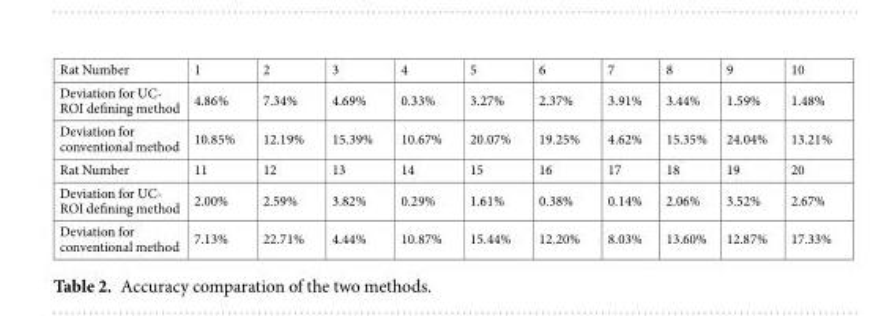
<table><tbody><tr><td>Rat Number</td><td>1</td><td>2</td><td>3</td><td>4</td><td>5</td><td>6</td><td>7</td><td>8</td><td>9</td><td>10</td></tr><tr><td>Deviation for UC- ROI defining method</td><td>4.86%</td><td>7.34%</td><td>4.69%</td><td>0.33%</td><td>3.27%</td><td>2.37%</td><td>3.91%</td><td>3.44%</td><td>1.59%</td><td>1.48%</td></tr><tr><td>Deviation for conventional method</td><td>10.85%</td><td>12.19%</td><td>15.39%</td><td>10.67%</td><td>20.07%</td><td>19.25%</td><td>4.62%</td><td>15.35%</td><td>24.04%</td><td>13.21%</td></tr><tr><td>Rat Number</td><td>11</td><td>12</td><td>13</td><td>14</td><td>15</td><td>16</td><td>17</td><td>18</td><td>19</td><td>20</td></tr><tr><td>Deviation for UC- ROI defining method</td><td>2.00%</td><td>2.59%</td><td>3.82%</td><td>0.29%</td><td>1.61%</td><td>0.38%</td><td>0.14%</td><td>2.06%</td><td>3.52%</td><td>2.67%</td></tr><tr><td>Deviation for conventional method</td><td>7.13%</td><td>22.71%</td><td>4.44%</td><td>10.87%</td><td>15.44%</td><td>12.20%</td><td>8.03%</td><td>13.60%</td><td>12.87%</td><td>17.33%</td></tr></tbody></table>